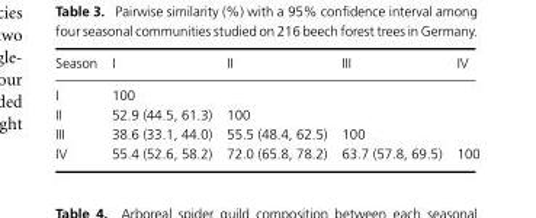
<table><thead><tr><td>Season</td><td>I</td><td>II</td><td>III</td><td>IV</td></tr></thead><tbody><tr><td>I</td><td>100</td><td></td><td></td><td></td></tr><tr><td>II</td><td>52.9 (44.5, 61.3)</td><td>100</td><td></td><td></td></tr><tr><td>III</td><td>38.6 (33.1, 44.0)</td><td>55.5 (48.4, 62.5)</td><td>100</td><td></td></tr><tr><td>IV</td><td>55.4 (52.6, 58.2)</td><td>72.0 (65.8, 78.2)</td><td>63.7 (57.8, 69.5)</td><td>100</td></tr></tbody></table>